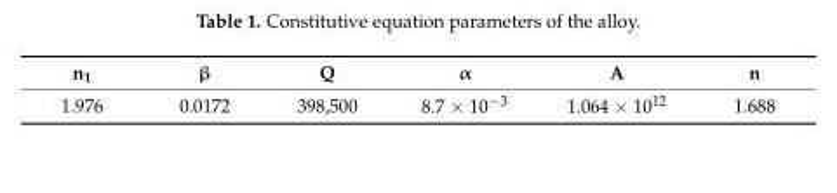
<table><thead><tr><td>n<sub>1</sub></td><td>β</td><td>Q</td><td>α</td><td>A</td><td>n</td></tr></thead><tbody><tr><td>1.976</td><td>0.0172</td><td>398,500</td><td>8.7 × 10<sup>−3</sup></td><td>1.064 × 10<sup>12</sup></td><td>1.688</td></tr></tbody></table>